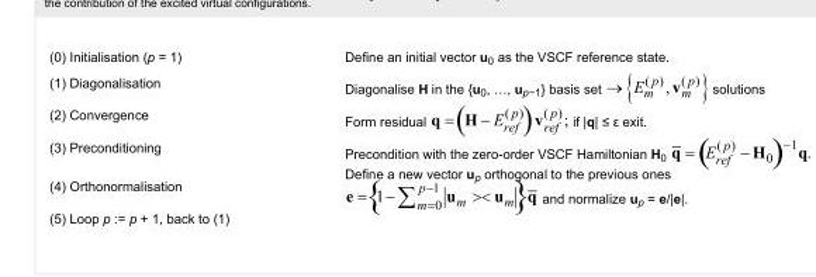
<table><tbody><tr><td>(0) Initialisation (p = 1)</td><td>Define an initial vector u<sub>0</sub> as the VSCF reference state.</td></tr><tr><td>(1) Diagonalisation</td><td>Diagonalise H in the {u0, …, up−1} basis set solutions</td></tr><tr><td>(2) Convergence</td><td>Form residual if |q| ≤ ε exit.</td></tr><tr><td>(3) Preconditioning</td><td>Precondition with the zero-order VSCF Hamiltonian H0</td></tr><tr><td>(4) Orthonormalisation</td><td>Define a new vector u<sub>p</sub> orthogonal to the previous ones and normalize u<sub>p</sub> = e/|e|.</td></tr><tr><td>(5) Loop p := p + 1, back to (1)</td><td></td></tr></tbody></table>